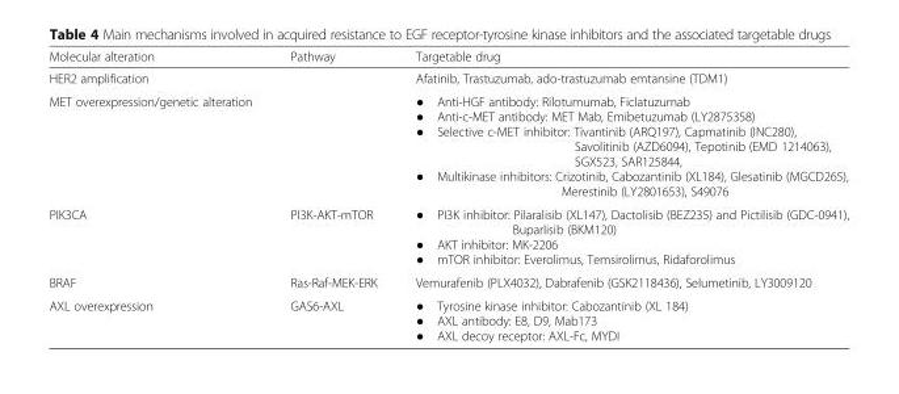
<table><thead><tr><td>Molecular alteration</td><td>Pathway</td><td>Targetable drug</td></tr></thead><tbody><tr><td>HER2 amplification</td><td></td><td>Afatinib, Trastuzumab, ado-trastuzumab emtansine (TDM1)</td></tr><tr><td>MET overexpression/genetic alteration</td><td></td><td>● Anti-HGF antibody: Rilotumumab, Ficlatuzumab ● Anti-c-MET antibody: MET Mab, Emibetuzumab (LY2875358) ● Selective c-MET inhibitor: Tivantinib (ARQ197), Capmatinib (INC280), Savolitinib (AZD6094), Tepotinib (EMD 1214063), SGX523, SAR125844, ● Multikinase inhibitors: Crizotinib, Cabozantinib (XL184), Glesatinib (MGCD265), Merestinib (LY2801653), S49076</td></tr><tr><td>PIK3CA</td><td>PI3K-AKT-mTOR</td><td>● PI3K inhibitor: Pilaralisib (XL147), Dactolisib (BEZ235) and Pictilisib (GDC-0941), Buparlisib (BKM120) ● AKT inhibitor: MK-2206 ● mTOR inhibitor: Everolimus, Temsirolimus, Ridaforolimus</td></tr><tr><td>BRAF</td><td>Ras-Raf-MEK-ERK</td><td>Vemurafenib (PLX4032), Dabrafenib (GSK2118436), Selumetinib, LY3009120</td></tr><tr><td>AXL overexpression</td><td>GAS6-AXL</td><td>● Tyrosine kinase inhibitor: Cabozantinib (XL 184) ● AXL antibody: E8, D9, Mab173 ● AXL decoy receptor: AXL-Fc, MYDI</td></tr></tbody></table>